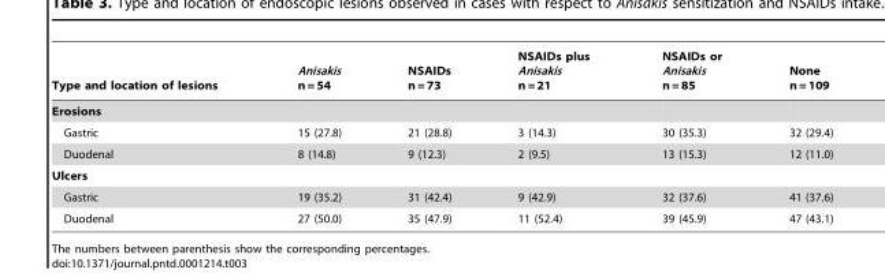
<table><thead><tr><td>Type and location of lesions</td><td>Anisakis n = 54</td><td>NSAIDs n = 73</td><td>NSAIDs plus Anisakis n = 21</td><td>NSAIDs or Anisakis n = 85</td><td>None n = 109</td></tr></thead><tbody><tr><td colspan="6">Erosions</td></tr><tr><td>Gastric</td><td>15 (27.8)</td><td>21 (28.8)</td><td>3 (14.3)</td><td>30 (35.3)</td><td>32 (29.4)</td></tr><tr><td>Duodenal</td><td>8 (14.8)</td><td>9 (12.3)</td><td>2 (9.5)</td><td>13 (15.3)</td><td>12 (11.0)</td></tr><tr><td colspan="6">Ulcers</td></tr><tr><td>Gastric</td><td>19 (35.2)</td><td>31 (42.4)</td><td>9 (42.9)</td><td>32 (37.6)</td><td>41 (37.6)</td></tr><tr><td>Duodenal</td><td>27 (50.0)</td><td>35 (47.9)</td><td>11 (52.4)</td><td>39 (45.9)</td><td>47 (43.1)</td></tr></tbody></table>